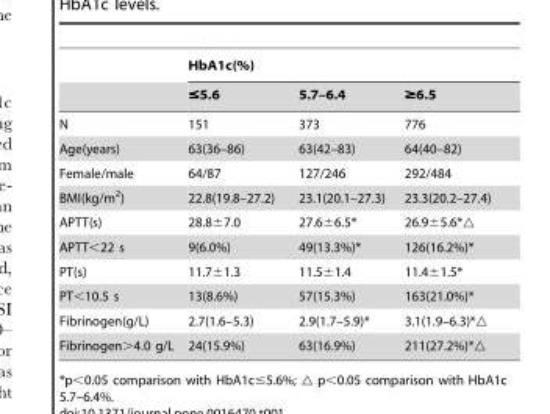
<table><thead><tr><td rowspan="2"></td><td colspan="3">HbA1c(%)</td></tr><tr><td>≤5.6</td><td>5.7–6.4</td><td>≥6.5</td></tr></thead><tbody><tr><td>N</td><td>151</td><td>373</td><td>776</td></tr><tr><td>Age(years)</td><td>63(36–86)</td><td>63(42–83)</td><td>64(40–82)</td></tr><tr><td>Female/male</td><td>64/87</td><td>127/246</td><td>292/484</td></tr><tr><td>BMI(kg/m<sup>2</sup>)</td><td>22.8(19.8–27.2)</td><td>23.1(20.1–27.3)</td><td>23.3(20.2–27.4)</td></tr><tr><td>APTT(s)</td><td>28.8±7.0</td><td>27.6±6.5*</td><td>26.9±5.6*△</td></tr><tr><td>APTT&lt;22 s</td><td>9(6.0%)</td><td>49(13.3%)*</td><td>126(16.2%)*</td></tr><tr><td>PT(s)</td><td>11.7±1.3</td><td>11.5±1.4</td><td>11.4±1.5*</td></tr><tr><td>PT&lt;10.5 s</td><td>13(8.6%)</td><td>57(15.3%)</td><td>163(21.0%)*</td></tr><tr><td>Fibrinogen(g/L)</td><td>2.7(1.6–5.3)</td><td>2.9(1.7–5.9)*</td><td>3.1(1.9–6.3)*△</td></tr><tr><td>Fibrinogen&gt;4.0 g/L</td><td>24(15.9%)</td><td>63(16.9%)</td><td>211(27.2%)*△</td></tr></tbody></table>